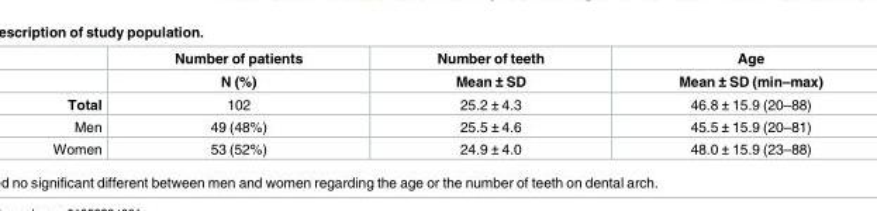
<table><thead><tr><td rowspan="2"></td><td rowspan="2">Number of patients N (%)</td><td rowspan="2">Number of teeth Mean ± SD</td><td rowspan="2">Age Mean ± SD (min–max)</td></tr><tr></tr></thead><tbody><tr><td>Total</td><td>102</td><td>25.2 ± 4.3</td><td>46.8 ± 15.9 (20–88)</td></tr><tr><td>Men</td><td>49 (48%)</td><td>25.5 ± 4.6</td><td>45.5 ± 15.9 (20–81)</td></tr><tr><td>Women</td><td>53 (52%)</td><td>24.9 ± 4.0</td><td>48.0 ± 15.9 (23–88)</td></tr></tbody></table>